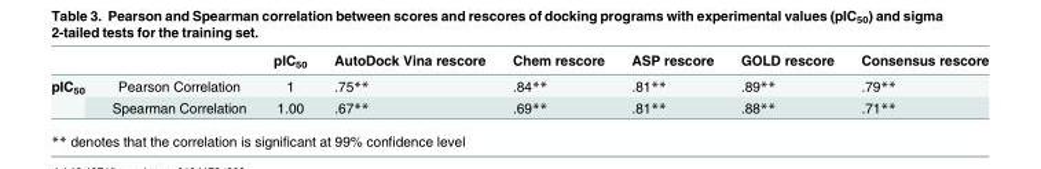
<table><thead><tr><td></td><td></td><td>pIC<sub>50</sub></td><td>AutoDock Vina rescore</td><td>Chem rescore</td><td>ASP rescore</td><td>GOLD rescore</td><td>Consensus rescore</td></tr></thead><tbody><tr><td rowspan="2">pIC<sub>50</sub></td><td>Pearson Correlation</td><td>1</td><td>.75**</td><td>.84**</td><td>.81**</td><td>.89**</td><td>.79**</td></tr><tr><td>Spearman Correlation</td><td>1.00</td><td>.67**</td><td>.69**</td><td>.81**</td><td>.88**</td><td>.71**</td></tr></tbody></table>